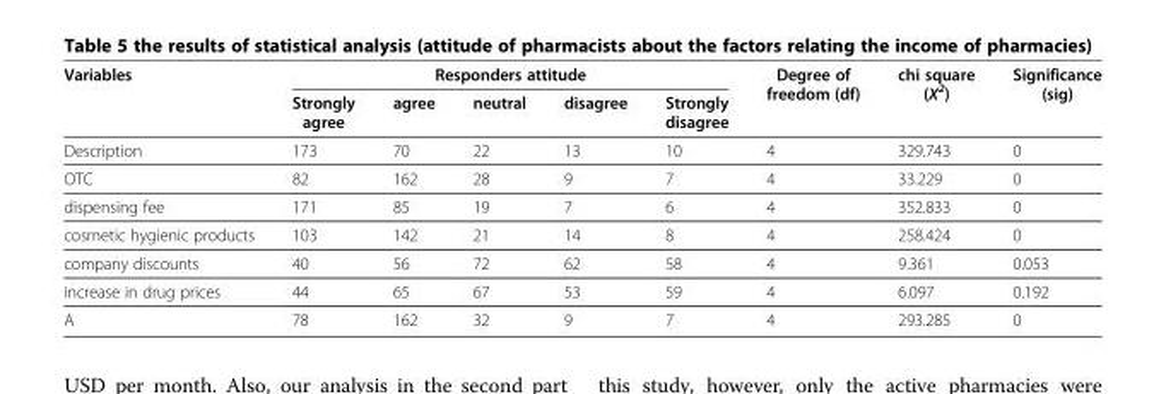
<table><thead><tr><td rowspan="2">Variables</td><td colspan="5">Responders attitude</td><td rowspan="2">Degree of freedom (df)</td><td rowspan="2">chi square (X<sup>2</sup>)</td><td rowspan="2">Significance (sig)</td></tr><tr><td>Strongly agree</td><td>agree</td><td>neutral</td><td>disagree</td><td>Strongly disagree</td></tr></thead><tbody><tr><td>Description</td><td>173</td><td>70</td><td>22</td><td>13</td><td>10</td><td>4</td><td>329.743</td><td>0</td></tr><tr><td>OTC</td><td>82</td><td>162</td><td>28</td><td>9</td><td>7</td><td>4</td><td>33.229</td><td>0</td></tr><tr><td>dispensing fee</td><td>171</td><td>85</td><td>19</td><td>7</td><td>6</td><td>4</td><td>352.833</td><td>0</td></tr><tr><td>cosmetic hygienic products</td><td>103</td><td>142</td><td>21</td><td>14</td><td>8</td><td>4</td><td>258.424</td><td>0</td></tr><tr><td>company discounts</td><td>40</td><td>56</td><td>72</td><td>62</td><td>58</td><td>4</td><td>9.361</td><td>0.053</td></tr><tr><td>increase in drug prices</td><td>44</td><td>65</td><td>67</td><td>53</td><td>59</td><td>4</td><td>6.097</td><td>0.192</td></tr><tr><td>A</td><td>78</td><td>162</td><td>32</td><td>9</td><td>7</td><td>4</td><td>293.285</td><td>0</td></tr></tbody></table>